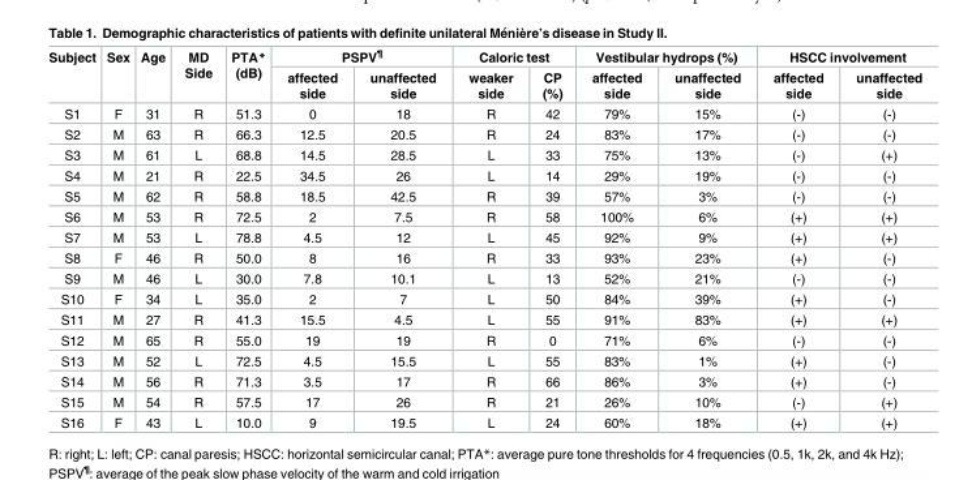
<table><thead><tr><td rowspan="2">Subject</td><td rowspan="2">Sex</td><td rowspan="2">Age</td><td rowspan="2">MD Side</td><td rowspan="2">PTA* (dB)</td><td colspan="2">PSPV<sup>¶</sup></td><td colspan="2">Caloric test</td><td colspan="2">Vestibular hydrops (%)</td><td colspan="2">HSCC involvement</td></tr><tr><td>affected side</td><td>unaffected side</td><td>weaker side</td><td>CP (%)</td><td>affected side</td><td>unaffected side</td><td>affected side</td><td>unaffected side</td></tr></thead><tbody><tr><td>S1</td><td>F</td><td>31</td><td>R</td><td>51.3</td><td>0</td><td>18</td><td>R</td><td>42</td><td>79%</td><td>15%</td><td>(-)</td><td>(-)</td></tr><tr><td>S2</td><td>M</td><td>63</td><td>R</td><td>66.3</td><td>12.5</td><td>20.5</td><td>R</td><td>24</td><td>83%</td><td>17%</td><td>(-)</td><td>(-)</td></tr><tr><td>S3</td><td>M</td><td>61</td><td>L</td><td>68.8</td><td>14.5</td><td>28.5</td><td>L</td><td>33</td><td>75%</td><td>13%</td><td>(-)</td><td>(+)</td></tr><tr><td>S4</td><td>M</td><td>21</td><td>R</td><td>22.5</td><td>34.5</td><td>26</td><td>L</td><td>14</td><td>29%</td><td>19%</td><td>(-)</td><td>(-)</td></tr><tr><td>S5</td><td>M</td><td>62</td><td>R</td><td>58.8</td><td>18.5</td><td>42.5</td><td>R</td><td>39</td><td>57%</td><td>3%</td><td>(-)</td><td>(-)</td></tr><tr><td>S6</td><td>M</td><td>53</td><td>R</td><td>72.5</td><td>2</td><td>7.5</td><td>R</td><td>58</td><td>100%</td><td>6%</td><td>(+)</td><td>(+)</td></tr><tr><td>S7</td><td>M</td><td>53</td><td>L</td><td>78.8</td><td>4.5</td><td>12</td><td>L</td><td>45</td><td>92%</td><td>9%</td><td>(+)</td><td>(+)</td></tr><tr><td>S8</td><td>F</td><td>46</td><td>R</td><td>50.0</td><td>8</td><td>16</td><td>R</td><td>33</td><td>93%</td><td>23%</td><td>(+)</td><td>(-)</td></tr><tr><td>S9</td><td>M</td><td>46</td><td>L</td><td>30.0</td><td>7.8</td><td>10.1</td><td>L</td><td>13</td><td>52%</td><td>21%</td><td>(-)</td><td>(-)</td></tr><tr><td>S10</td><td>F</td><td>34</td><td>L</td><td>35.0</td><td>2</td><td>7</td><td>L</td><td>50</td><td>84%</td><td>39%</td><td>(+)</td><td>(-)</td></tr><tr><td>S11</td><td>M</td><td>27</td><td>R</td><td>41.3</td><td>15.5</td><td>4.5</td><td>L</td><td>55</td><td>91%</td><td>83%</td><td>(+)</td><td>(+)</td></tr><tr><td>S12</td><td>M</td><td>65</td><td>R</td><td>55.0</td><td>19</td><td>19</td><td>R</td><td>0</td><td>71%</td><td>6%</td><td>(-)</td><td>(-)</td></tr><tr><td>S13</td><td>M</td><td>52</td><td>L</td><td>72.5</td><td>4.5</td><td>15.5</td><td>L</td><td>55</td><td>83%</td><td>1%</td><td>(+)</td><td>(-)</td></tr><tr><td>S14</td><td>M</td><td>56</td><td>R</td><td>71.3</td><td>3.5</td><td>17</td><td>R</td><td>66</td><td>86%</td><td>3%</td><td>(+)</td><td>(-)</td></tr><tr><td>S15</td><td>M</td><td>54</td><td>R</td><td>57.5</td><td>17</td><td>26</td><td>R</td><td>21</td><td>26%</td><td>10%</td><td>(-)</td><td>(+)</td></tr><tr><td>S16</td><td>F</td><td>43</td><td>L</td><td>10.0</td><td>9</td><td>19.5</td><td>L</td><td>24</td><td>60%</td><td>18%</td><td>(+)</td><td>(+)</td></tr></tbody></table>